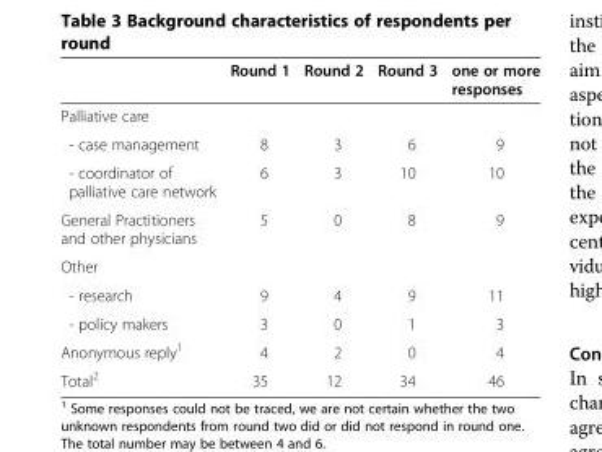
<table><thead><tr><td></td><td>Round 1</td><td>Round 2</td><td>Round 3</td><td>one or more responses</td></tr></thead><tbody><tr><td colspan="5">Palliative care</td></tr><tr><td>- case management</td><td>8</td><td>3</td><td>6</td><td>9</td></tr><tr><td>- coordinator of palliative care network</td><td>6</td><td>3</td><td>10</td><td>10</td></tr><tr><td>General Practitioners and other physicians</td><td>5</td><td>0</td><td>8</td><td>9</td></tr><tr><td colspan="5">Other</td></tr><tr><td>- research</td><td>9</td><td>4</td><td>9</td><td>11</td></tr><tr><td>- policy makers</td><td>3</td><td>0</td><td>1</td><td>3</td></tr><tr><td>Anonymous reply<sup>1</sup></td><td>4</td><td>2</td><td>0</td><td>4</td></tr><tr><td>Total<sup>2</sup></td><td>35</td><td>12</td><td>34</td><td>46</td></tr></tbody></table>